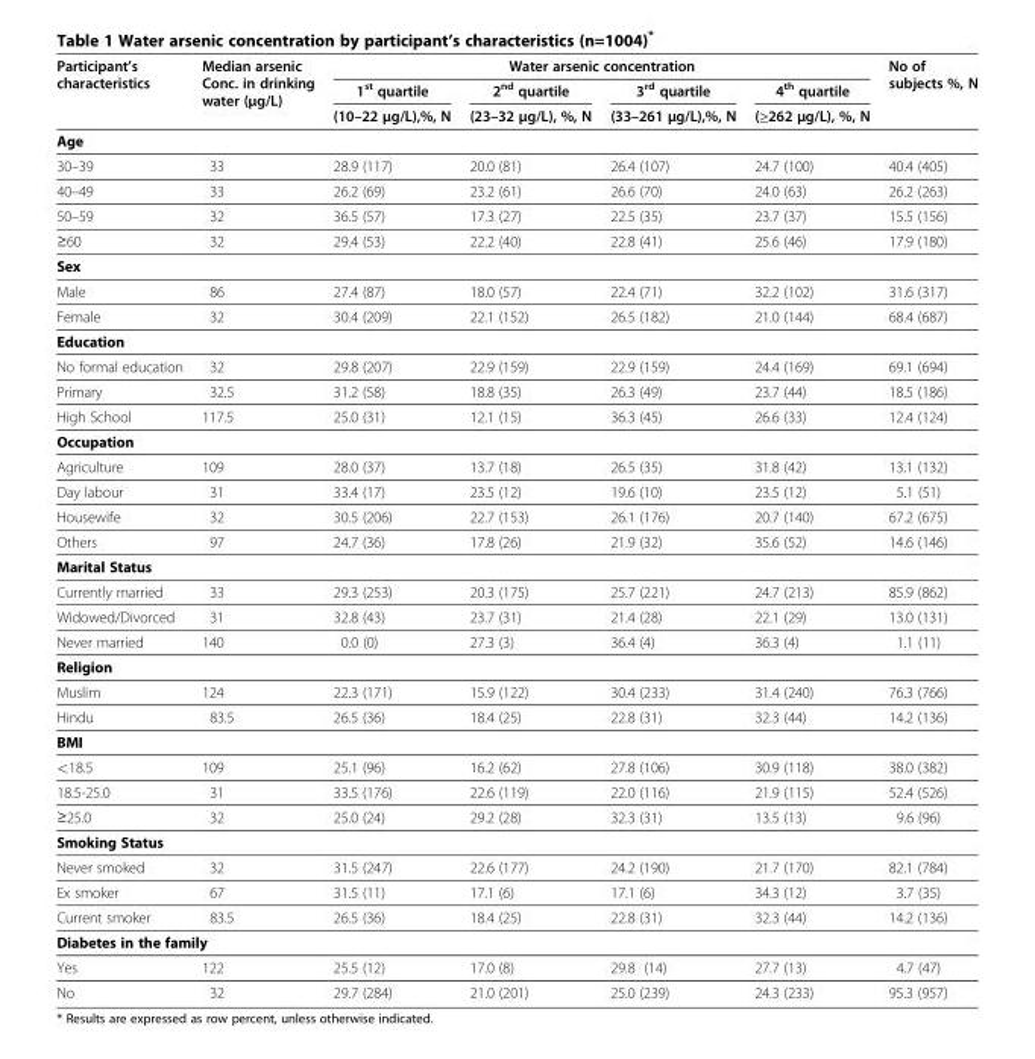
<table><thead><tr><td rowspan="3">Participant’s characteristics</td><td rowspan="3">Median arsenic Conc. in drinking water (μg/L)</td><td colspan="4">Water arsenic concentration</td><td rowspan="3">No of subjects %, N</td></tr><tr><td rowspan="2">1<sup>st</sup> quartile (10–22 μg/L),%, N</td><td rowspan="2">2<sup>nd</sup> quartile (23–32 μg/L), %, N</td><td rowspan="2">3<sup>rd</sup> quartile (33–261 μg/L),%, N</td><td rowspan="2">4<sup>th</sup> quartile (≥262 μg/L), %, N</td></tr><tr></tr></thead><tbody><tr><td colspan="7">Age</td></tr><tr><td>30–39</td><td>33</td><td>28.9 (117)</td><td>20.0 (81)</td><td>26.4 (107)</td><td>24.7 (100)</td><td>40.4 (405)</td></tr><tr><td>40–49</td><td>33</td><td>26.2 (69)</td><td>23.2 (61)</td><td>26.6 (70)</td><td>24.0 (63)</td><td>26.2 (263)</td></tr><tr><td>50–59</td><td>32</td><td>36.5 (57)</td><td>17.3 (27)</td><td>22.5 (35)</td><td>23.7 (37)</td><td>15.5 (156)</td></tr><tr><td>≥60</td><td>32</td><td>29.4 (53)</td><td>22.2 (40)</td><td>22.8 (41)</td><td>25.6 (46)</td><td>17.9 (180)</td></tr><tr><td colspan="7">Sex</td></tr><tr><td>Male</td><td>86</td><td>27.4 (87)</td><td>18.0 (57)</td><td>22.4 (71)</td><td>32.2 (102)</td><td>31.6 (317)</td></tr><tr><td>Female</td><td>32</td><td>30.4 (209)</td><td>22.1 (152)</td><td>26.5 (182)</td><td>21.0 (144)</td><td>68.4 (687)</td></tr><tr><td colspan="7">Education</td></tr><tr><td>No formal education</td><td>32</td><td>29.8 (207)</td><td>22.9 (159)</td><td>22.9 (159)</td><td>24.4 (169)</td><td>69.1 (694)</td></tr><tr><td>Primary</td><td>32.5</td><td>31.2 (58)</td><td>18.8 (35)</td><td>26.3 (49)</td><td>23.7 (44)</td><td>18.5 (186)</td></tr><tr><td>High School</td><td>117.5</td><td>25.0 (31)</td><td>12.1 (15)</td><td>36.3 (45)</td><td>26.6 (33)</td><td>12.4 (124)</td></tr><tr><td colspan="7">Occupation</td></tr><tr><td>Agriculture</td><td>109</td><td>28.0 (37)</td><td>13.7 (18)</td><td>26.5 (35)</td><td>31.8 (42)</td><td>13.1 (132)</td></tr><tr><td>Day labour</td><td>31</td><td>33.4 (17)</td><td>23.5 (12)</td><td>19.6 (10)</td><td>23.5 (12)</td><td>5.1 (51)</td></tr><tr><td>Housewife</td><td>32</td><td>30.5 (206)</td><td>22.7 (153)</td><td>26.1 (176)</td><td>20.7 (140)</td><td>67.2 (675)</td></tr><tr><td>Others</td><td>97</td><td>24.7 (36)</td><td>17.8 (26)</td><td>21.9 (32)</td><td>35.6 (52)</td><td>14.6 (146)</td></tr><tr><td colspan="7">Marital Status</td></tr><tr><td>Currently married</td><td>33</td><td>29.3 (253)</td><td>20.3 (175)</td><td>25.7 (221)</td><td>24.7 (213)</td><td>85.9 (862)</td></tr><tr><td>Widowed/Divorced</td><td>31</td><td>32.8 (43)</td><td>23.7 (31)</td><td>21.4 (28)</td><td>22.1 (29)</td><td>13.0 (131)</td></tr><tr><td>Never married</td><td>140</td><td>0.0 (0)</td><td>27.3 (3)</td><td>36.4 (4)</td><td>36.3 (4)</td><td>1.1 (11)</td></tr><tr><td colspan="7">Religion</td></tr><tr><td>Muslim</td><td>124</td><td>22.3 (171)</td><td>15.9 (122)</td><td>30.4 (233)</td><td>31.4 (240)</td><td>76.3 (766)</td></tr><tr><td>Hindu</td><td>83.5</td><td>26.5 (36)</td><td>18.4 (25)</td><td>22.8 (31)</td><td>32.3 (44)</td><td>14.2 (136)</td></tr><tr><td colspan="7">BMI</td></tr><tr><td>&lt;18.5</td><td>109</td><td>25.1 (96)</td><td>16.2 (62)</td><td>27.8 (106)</td><td>30.9 (118)</td><td>38.0 (382)</td></tr><tr><td>18.5-25.0</td><td>31</td><td>33.5 (176)</td><td>22.6 (119)</td><td>22.0 (116)</td><td>21.9 (115)</td><td>52.4 (526)</td></tr><tr><td>≥25.0</td><td>32</td><td>25.0 (24)</td><td>29.2 (28)</td><td>32.3 (31)</td><td>13.5 (13)</td><td>9.6 (96)</td></tr><tr><td colspan="7">Smoking Status</td></tr><tr><td>Never smoked</td><td>32</td><td>31.5 (247)</td><td>22.6 (177)</td><td>24.2 (190)</td><td>21.7 (170)</td><td>82.1 (784)</td></tr><tr><td>Ex smoker</td><td>67</td><td>31.5 (11)</td><td>17.1 (6)</td><td>17.1 (6)</td><td>34.3 (12)</td><td>3.7 (35)</td></tr><tr><td>Current smoker</td><td>83.5</td><td>26.5 (36)</td><td>18.4 (25)</td><td>22.8 (31)</td><td>32.3 (44)</td><td>14.2 (136)</td></tr><tr><td colspan="7">Diabetes in the family</td></tr><tr><td>Yes</td><td>122</td><td>25.5 (12)</td><td>17.0 (8)</td><td>29.8 (14)</td><td>27.7 (13)</td><td>4.7 (47)</td></tr><tr><td>No</td><td>32</td><td>29.7 (284)</td><td>21.0 (201)</td><td>25.0 (239)</td><td>24.3 (233)</td><td>95.3 (957)</td></tr></tbody></table>